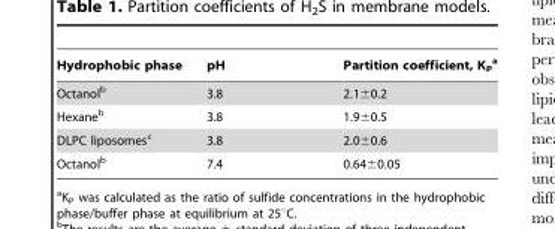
<table><thead><tr><td>Hydrophobic phase</td><td>pH</td><td>Partition coefficient, K<sub>P</sub> a</td></tr></thead><tbody><tr><td>Octanol<sup>b</sup></td><td>3.8</td><td>2.1±0.2</td></tr><tr><td>Hexane<sup>b</sup></td><td>3.8</td><td>1.9±0.5</td></tr><tr><td>DLPC liposomes<sup>c</sup></td><td>3.8</td><td>2.0±0.6</td></tr><tr><td>Octanol<sup>b</sup></td><td>7.4</td><td>0.64±0.05</td></tr></tbody></table>